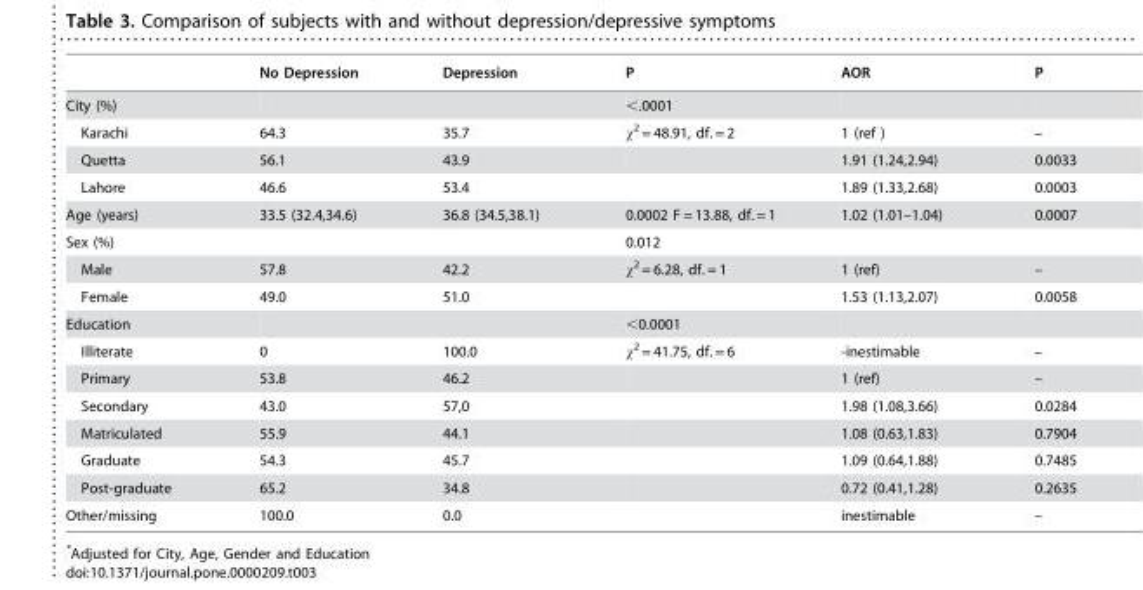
<table><thead><tr><td></td><td>No Depression</td><td>Depression</td><td>P</td><td>AOR</td><td>P</td></tr></thead><tbody><tr><td>City (%)</td><td></td><td></td><td>&lt;.0001</td><td></td><td></td></tr><tr><td>Karachi</td><td>64.3</td><td>35.7</td><td>χ<sup>2</sup> = 48.91, df. = 2</td><td>1 (ref )</td><td>–</td></tr><tr><td>Quetta</td><td>56.1</td><td>43.9</td><td></td><td>1.91 (1.24,2.94)</td><td>0.0033</td></tr><tr><td>Lahore</td><td>46.6</td><td>53.4</td><td></td><td>1.89 (1.33,2.68)</td><td>0.0003</td></tr><tr><td>Age (years)</td><td>33.5 (32.4,34.6)</td><td>36.8 (34.5,38.1)</td><td>0.0002 F = 13.88, df. = 1</td><td>1.02 (1.01–1.04)</td><td>0.0007</td></tr><tr><td>Sex (%)</td><td></td><td></td><td>0.012</td><td></td><td></td></tr><tr><td>Male</td><td>57.8</td><td>42.2</td><td>χ<sup>2</sup> = 6.28, df. = 1</td><td>1 (ref)</td><td>–</td></tr><tr><td>Female</td><td>49.0</td><td>51.0</td><td></td><td>1.53 (1.13,2.07)</td><td>0.0058</td></tr><tr><td>Education</td><td></td><td></td><td>&lt;0.0001</td><td></td><td></td></tr><tr><td>Illiterate</td><td>0</td><td>100.0</td><td>χ<sup>2</sup> = 41.75, df. = 6</td><td>-inestimable</td><td>–</td></tr><tr><td>Primary</td><td>53.8</td><td>46.2</td><td></td><td>1 (ref)</td><td>–</td></tr><tr><td>Secondary</td><td>43.0</td><td>57,0</td><td></td><td>1.98 (1.08,3.66)</td><td>0.0284</td></tr><tr><td>Matriculated</td><td>55.9</td><td>44.1</td><td></td><td>1.08 (0.63,1.83)</td><td>0.7904</td></tr><tr><td>Graduate</td><td>54.3</td><td>45.7</td><td></td><td>1.09 (0.64,1.88)</td><td>0.7485</td></tr><tr><td>Post-graduate</td><td>65.2</td><td>34.8</td><td></td><td>0.72 (0.41,1.28)</td><td>0.2635</td></tr><tr><td>Other/missing</td><td>100.0</td><td>0.0</td><td></td><td>inestimable</td><td>–</td></tr></tbody></table>